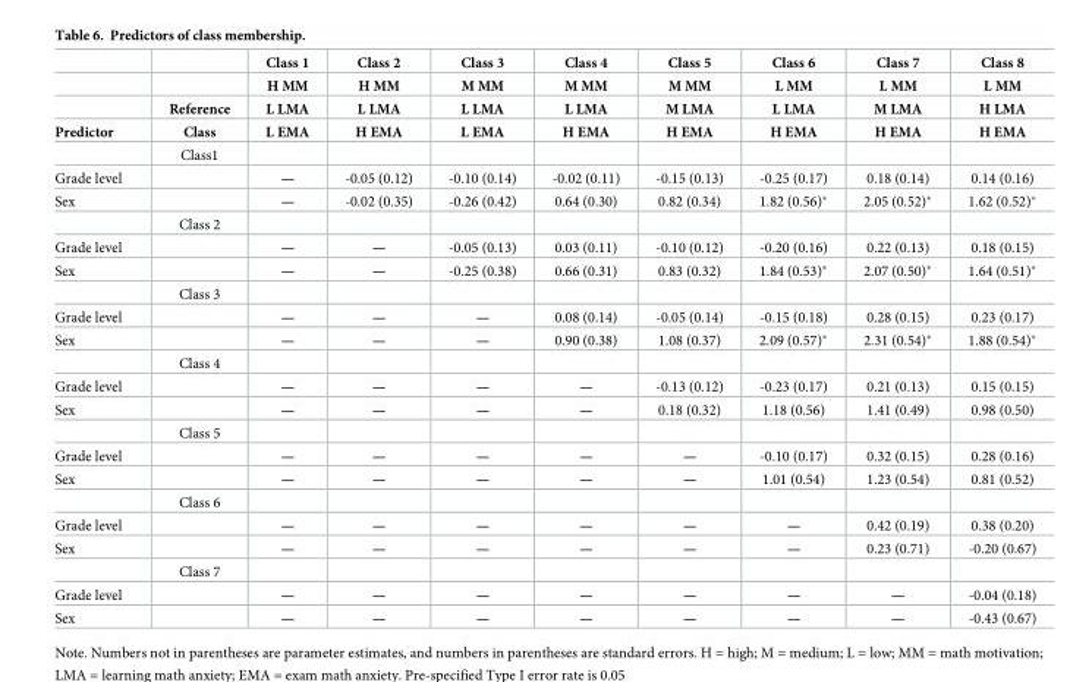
<table><thead><tr><td rowspan="4">Predictor</td><td rowspan="4">Reference Class</td><td rowspan="4">Class 1 H MM L LMA L EMA</td><td rowspan="4">Class 2 H MM L LMA H EMA</td><td rowspan="4">Class 3 M MM L LMA L EMA</td><td rowspan="4">Class 4 M MM L LMA H EMA</td><td rowspan="4">Class 5 M MM M LMA H EMA</td><td rowspan="4">Class 6 L MM L LMA H EMA</td><td rowspan="4">Class 7 L MM M LMA H EMA</td><td rowspan="4">Class 8 L MM H LMA H EMA</td></tr><tr></tr><tr></tr><tr></tr></thead><tbody><tr><td></td><td>Class1</td><td></td><td></td><td></td><td></td><td></td><td></td><td></td><td></td></tr><tr><td>Grade level</td><td></td><td>—</td><td>-0.05 (0.12)</td><td>-0.10 (0.14)</td><td>-0.02 (0.11)</td><td>-0.15 (0.13)</td><td>-0.25 (0.17)</td><td>0.18 (0.14)</td><td>0.14 (0.16)</td></tr><tr><td rowspan="2">Sex</td><td></td><td>—</td><td>-0.02 (0.35)</td><td>-0.26 (0.42)</td><td>0.64 (0.30)</td><td>0.82 (0.34)</td><td>1.82 (0.56)*</td><td>2.05 (0.52)*</td><td>1.62 (0.52)*</td></tr><tr><td>Class 2</td><td></td><td></td><td></td><td></td><td></td><td></td><td></td><td></td></tr><tr><td>Grade level</td><td></td><td>—</td><td>—</td><td>-0.05 (0.13)</td><td>0.03 (0.11)</td><td>-0.10 (0.12)</td><td>-0.20 (0.16)</td><td>0.22 (0.13)</td><td>0.18 (0.15)</td></tr><tr><td rowspan="2">Sex</td><td></td><td>—</td><td>—</td><td>-0.25 (0.38)</td><td>0.66 (0.31)</td><td>0.83 (0.32)</td><td>1.84 (0.53)*</td><td>2.07 (0.50)*</td><td>1.64 (0.51)*</td></tr><tr><td>Class 3</td><td></td><td></td><td></td><td></td><td></td><td></td><td></td><td></td></tr><tr><td>Grade level</td><td></td><td>—</td><td>—</td><td>—</td><td>0.08 (0.14)</td><td>-0.05 (0.14)</td><td>-0.15 (0.18)</td><td>0.28 (0.15)</td><td>0.23 (0.17)</td></tr><tr><td rowspan="2">Sex</td><td></td><td>—</td><td>—</td><td>—</td><td>0.90 (0.38)</td><td>1.08 (0.37)</td><td>2.09 (0.57)*</td><td>2.31 (0.54)*</td><td>1.88 (0.54)*</td></tr><tr><td>Class 4</td><td></td><td></td><td></td><td></td><td></td><td></td><td></td><td></td></tr><tr><td>Grade level</td><td></td><td>—</td><td>—</td><td>—</td><td>—</td><td>-0.13 (0.12)</td><td>-0.23 (0.17)</td><td>0.21 (0.13)</td><td>0.15 (0.15)</td></tr><tr><td rowspan="2">Sex</td><td></td><td>—</td><td>—</td><td>—</td><td>—</td><td>0.18 (0.32)</td><td>1.18 (0.56)</td><td>1.41 (0.49)</td><td>0.98 (0.50)</td></tr><tr><td>Class 5</td><td></td><td></td><td></td><td></td><td></td><td></td><td></td><td></td></tr><tr><td>Grade level</td><td></td><td>—</td><td>—</td><td>—</td><td>—</td><td>—</td><td>-0.10 (0.17)</td><td>0.32 (0.15)</td><td>0.28 (0.16)</td></tr><tr><td rowspan="2">Sex</td><td></td><td>—</td><td>—</td><td>—</td><td>—</td><td>—</td><td>1.01 (0.54)</td><td>1.23 (0.54)</td><td>0.81 (0.52)</td></tr><tr><td>Class 6</td><td></td><td></td><td></td><td></td><td></td><td></td><td></td><td></td></tr><tr><td>Grade level</td><td></td><td>—</td><td>—</td><td>—</td><td>—</td><td>—</td><td>—</td><td>0.42 (0.19)</td><td>0.38 (0.20)</td></tr><tr><td rowspan="2">Sex</td><td></td><td>—</td><td>—</td><td>—</td><td>—</td><td>—</td><td>—</td><td>0.23 (0.71)</td><td>-0.20 (0.67)</td></tr><tr><td>Class 7</td><td></td><td></td><td></td><td></td><td></td><td></td><td></td><td></td></tr><tr><td>Grade level</td><td></td><td>—</td><td>—</td><td>—</td><td>—</td><td>—</td><td>—</td><td>—</td><td>-0.04 (0.18)</td></tr><tr><td>Sex</td><td></td><td>—</td><td>—</td><td>—</td><td>—</td><td>—</td><td>—</td><td>—</td><td>-0.43 (0.67)</td></tr></tbody></table>